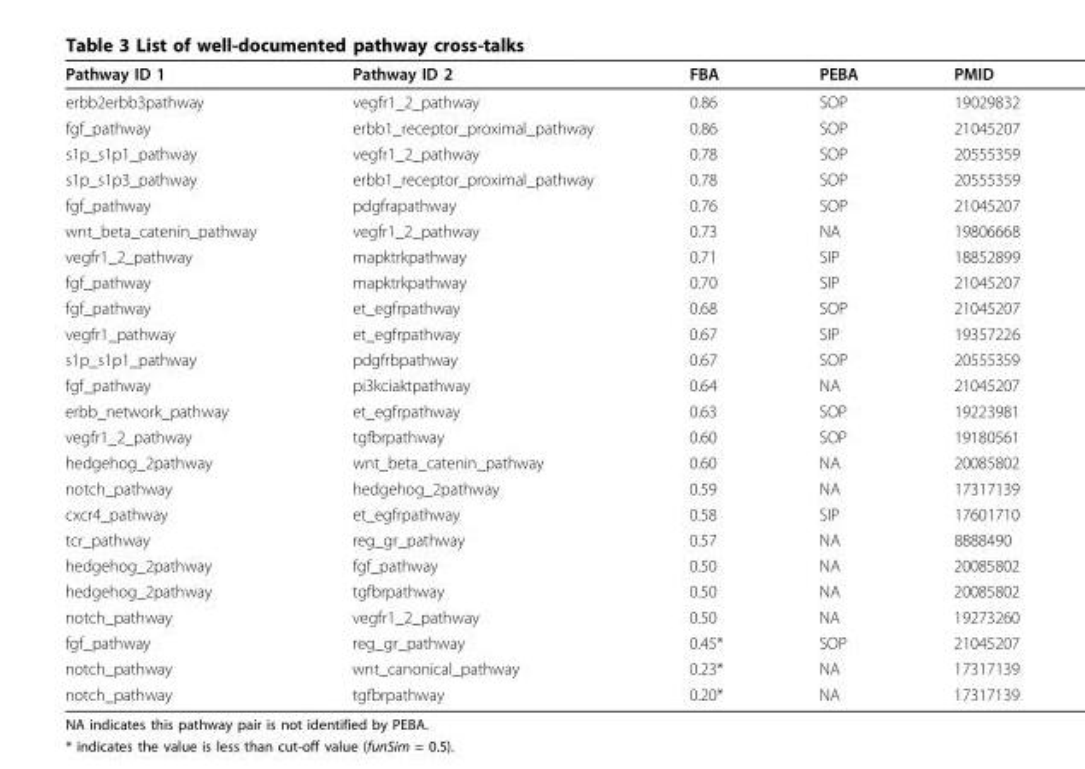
<table><thead><tr><td>Pathway ID 1</td><td>Pathway ID 2</td><td>FBA</td><td>PEBA</td><td>PMID</td></tr></thead><tbody><tr><td>erbb2erbb3pathway</td><td>vegfr1_2_pathway</td><td>0.86</td><td>SOP</td><td>19029832</td></tr><tr><td>fgf_pathway</td><td>erbb1_receptor_proximal_pathway</td><td>0.86</td><td>SOP</td><td>21045207</td></tr><tr><td>s1p_s1p1_pathway</td><td>vegfr1_2_pathway</td><td>0.78</td><td>SOP</td><td>20555359</td></tr><tr><td>s1p_s1p3_pathway</td><td>erbb1_receptor_proximal_pathway</td><td>0.78</td><td>SOP</td><td>20555359</td></tr><tr><td>fgf_pathway</td><td>pdgfrapathway</td><td>0.76</td><td>SOP</td><td>21045207</td></tr><tr><td>wnt_beta_catenin_pathway</td><td>vegfr1_2_pathway</td><td>0.73</td><td>NA</td><td>19806668</td></tr><tr><td>vegfr1_2_pathway</td><td>mapktrkpathway</td><td>0.71</td><td>SIP</td><td>18852899</td></tr><tr><td>fgf_pathway</td><td>mapktrkpathway</td><td>0.70</td><td>SIP</td><td>21045207</td></tr><tr><td>fgf_pathway</td><td>et_egfrpathway</td><td>0.68</td><td>SOP</td><td>21045207</td></tr><tr><td>vegfr1_pathway</td><td>et_egfrpathway</td><td>0.67</td><td>SIP</td><td>19357226</td></tr><tr><td>s1p_s1p1_pathway</td><td>pdgfrbpathway</td><td>0.67</td><td>SOP</td><td>20555359</td></tr><tr><td>fgf_pathway</td><td>pi3kciaktpathway</td><td>0.64</td><td>NA</td><td>21045207</td></tr><tr><td>erbb_network_pathway</td><td>et_egfrpathway</td><td>0.63</td><td>SOP</td><td>19223981</td></tr><tr><td>vegfr1_2_pathway</td><td>tgfbrpathway</td><td>0.60</td><td>SOP</td><td>19180561</td></tr><tr><td>hedgehog_2pathway</td><td>wnt_beta_catenin_pathway</td><td>0.60</td><td>NA</td><td>20085802</td></tr><tr><td>notch_pathway</td><td>hedgehog_2pathway</td><td>0.59</td><td>NA</td><td>17317139</td></tr><tr><td>cxcr4_pathway</td><td>et_egfrpathway</td><td>0.58</td><td>SIP</td><td>17601710</td></tr><tr><td>tcr_pathway</td><td>reg_gr_pathway</td><td>0.57</td><td>NA</td><td>8888490</td></tr><tr><td>hedgehog_2pathway</td><td>fgf_pathway</td><td>0.50</td><td>NA</td><td>20085802</td></tr><tr><td>hedgehog_2pathway</td><td>tgfbrpathway</td><td>0.50</td><td>NA</td><td>20085802</td></tr><tr><td>notch_pathway</td><td>vegfr1_2_pathway</td><td>0.50</td><td>NA</td><td>19273260</td></tr><tr><td>fgf_pathway</td><td>reg_gr_pathway</td><td>0.45*</td><td>SOP</td><td>21045207</td></tr><tr><td>notch_pathway</td><td>wnt_canonical_pathway</td><td>0.23*</td><td>NA</td><td>17317139</td></tr><tr><td>notch_pathway</td><td>tgfbrpathway</td><td>0.20*</td><td>NA</td><td>17317139</td></tr></tbody></table>